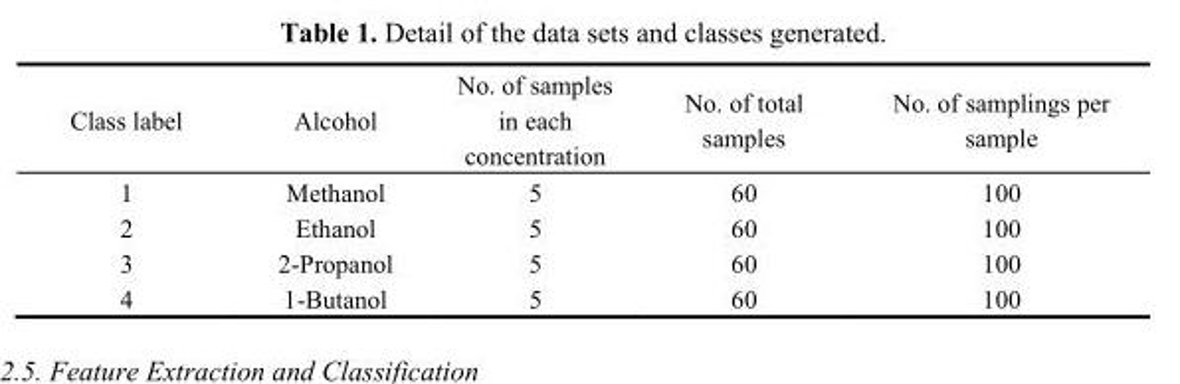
<table><thead><tr><td>Class label</td><td>Alcohol</td><td>No. of samples in each concentration</td><td>No. of total samples</td><td>No. of samplings per sample</td></tr></thead><tbody><tr><td>1</td><td>Methanol</td><td>5</td><td>60</td><td>100</td></tr><tr><td>2</td><td>Ethanol</td><td>5</td><td>60</td><td>100</td></tr><tr><td>3</td><td>2-Propanol</td><td>5</td><td>60</td><td>100</td></tr><tr><td>4</td><td>1-Butanol</td><td>5</td><td>60</td><td>100</td></tr></tbody></table>